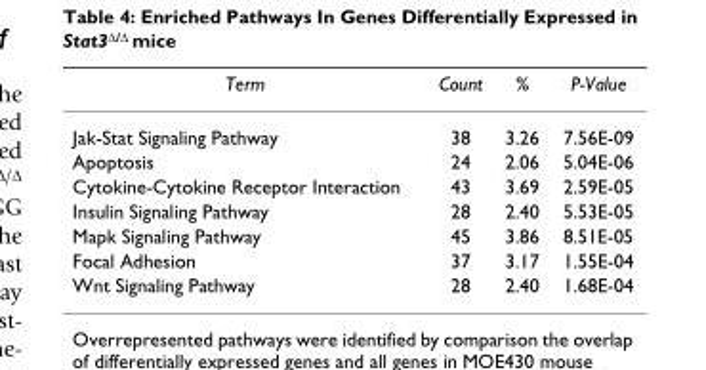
<table><thead><tr><td>Term</td><td>Count</td><td>%</td><td>P-Value</td></tr></thead><tbody><tr><td>Jak-Stat Signaling Pathway</td><td>38</td><td>3.26</td><td>7.56E-09</td></tr><tr><td>Apoptosis</td><td>24</td><td>2.06</td><td>5.04E-06</td></tr><tr><td>Cytokine-Cytokine Receptor Interaction</td><td>43</td><td>3.69</td><td>2.59E-05</td></tr><tr><td>Insulin Signaling Pathway</td><td>28</td><td>2.40</td><td>5.53E-05</td></tr><tr><td>Mapk Signaling Pathway</td><td>45</td><td>3.86</td><td>8.51E-05</td></tr><tr><td>Focal Adhesion</td><td>37</td><td>3.17</td><td>1.55E-04</td></tr><tr><td>Wnt Signaling Pathway</td><td>28</td><td>2.40</td><td>1.68E-04</td></tr></tbody></table>